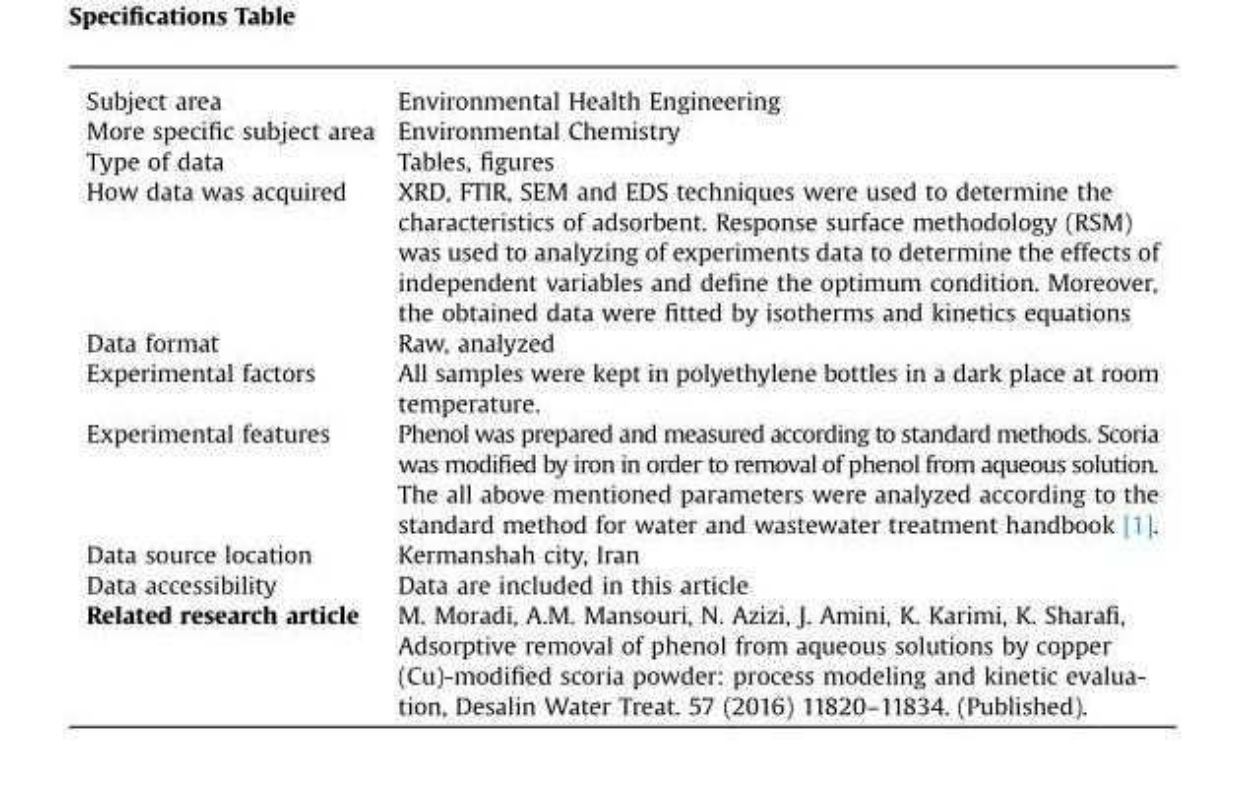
<table><tbody><tr><td>Subject area</td><td>Environmental Health Engineering</td></tr><tr><td>More specific subject area</td><td>Environmental Chemistry</td></tr><tr><td>Type of data</td><td>Tables, figures</td></tr><tr><td>How data was acquired</td><td>XRD, FTIR, SEM and EDS techniques were used to determine the characteristics of adsorbent. Response surface methodology (RSM) was used to analyzing of experiments data to determine the effects of independent variables and define the optimum condition. Moreover, the obtained data were fitted by isotherms and kinetics equations</td></tr><tr><td>Data format</td><td>Raw, analyzed</td></tr><tr><td>Experimental factors</td><td>All samples were kept in polyethylene bottles in a dark place at room temperature.</td></tr><tr><td rowspan="2">Experimental features</td><td>Phenol was prepared and measured according to standard methods. Scoria was modified by iron in order to removal of phenol from aqueous solution.</td></tr><tr><td>The all above mentioned parameters were analyzed according to the standard method for water and wastewater treatment handbook [1].</td></tr><tr><td>Data source location</td><td>Kermanshah city, Iran</td></tr><tr><td>Data accessibility</td><td>Data are included in this article</td></tr><tr><td>Related research article</td><td>M. Moradi, A.M. Mansouri, N. Azizi, J. Amini, K. Karimi, K. Sharafi, Adsorptive removal of phenol from aqueous solutions by copper (Cu)-modified scoria powder: process modeling and kinetic evalua- tion, Desalin Water Treat. 57 (2016) 11820–11834. (Published).</td></tr></tbody></table>